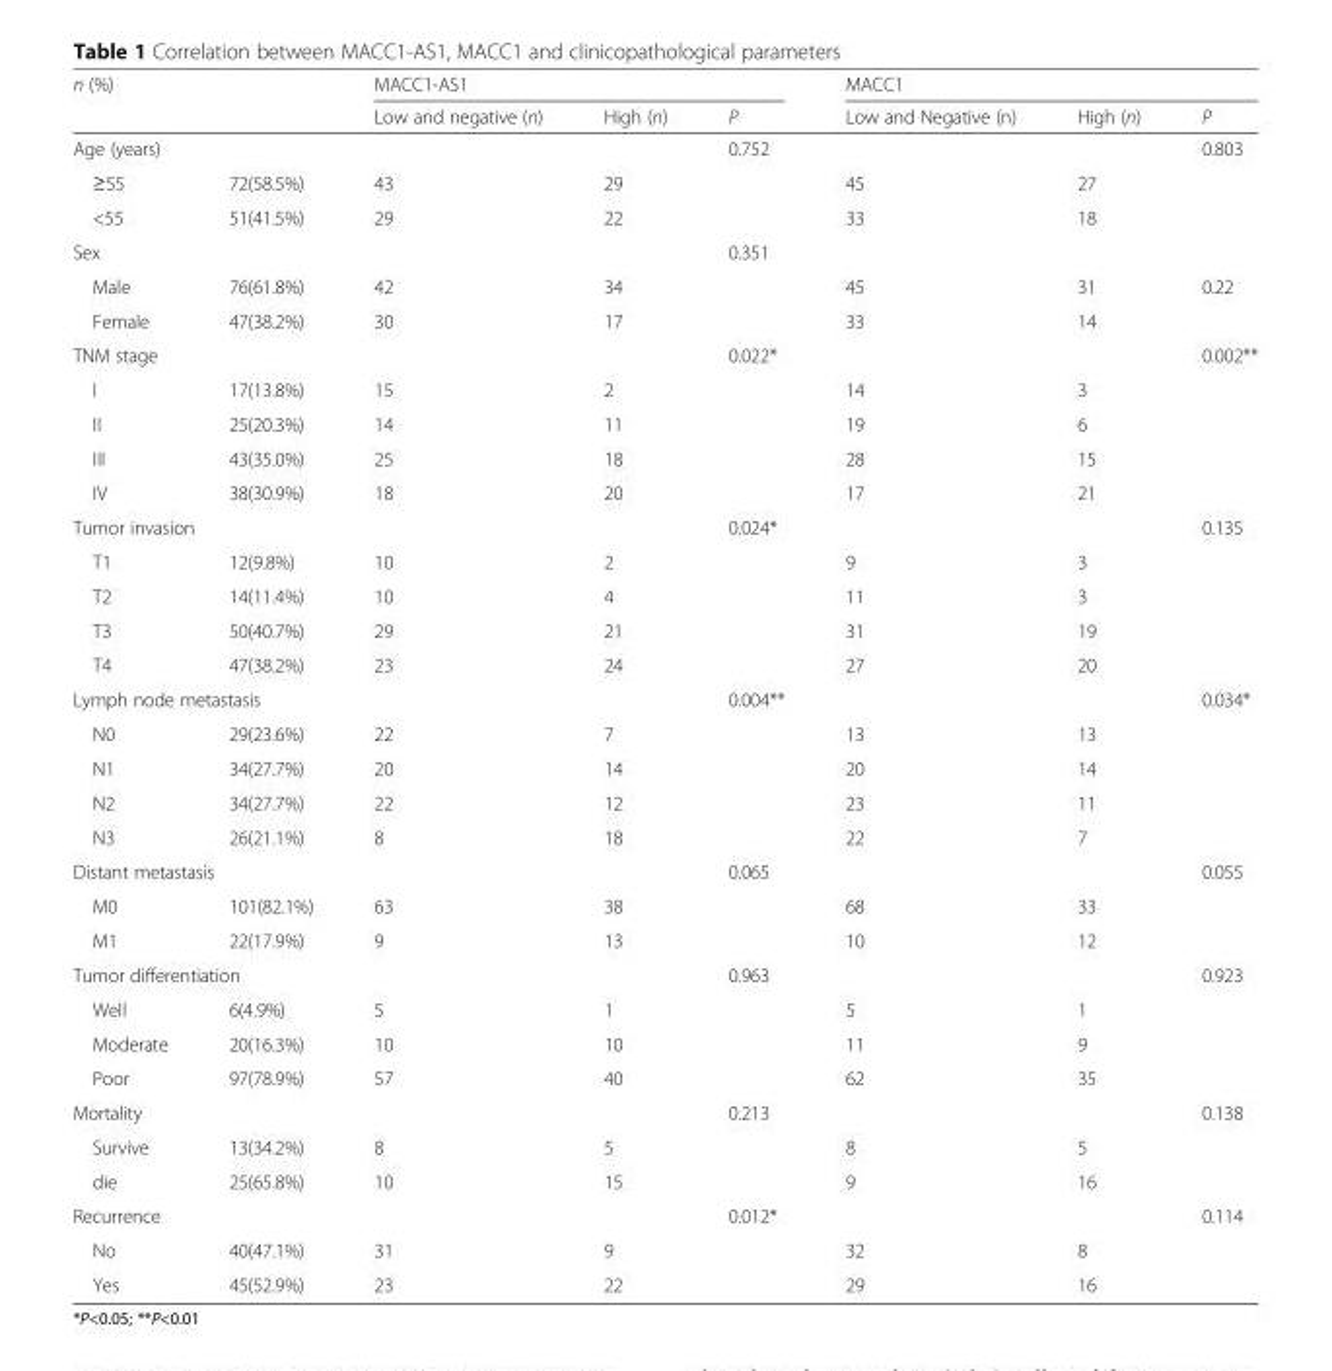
<table><thead><tr><td rowspan="3" colspan="2">n (%) Age (years)</td><td colspan="3">MACC1-AS1</td><td colspan="3">MACC1</td></tr><tr><td rowspan="3">Low and negative (n) 43</td><td rowspan="3">High (n) 29</td><td rowspan="3">P 0.752</td><td rowspan="3">Low and Negative (n) 45</td><td rowspan="3">High (n) 27</td><td rowspan="3">P 0.803</td></tr><tr></tr><tr><td>≥55</td><td>72(58.5%)</td></tr></thead><tbody><tr><td>&lt;55</td><td>51(41.5%)</td><td>29</td><td>22</td><td></td><td>33</td><td>18</td><td></td></tr><tr><td>Sex</td><td></td><td></td><td></td><td>0.351</td><td></td><td></td><td></td></tr><tr><td>Male</td><td>76(61.8%)</td><td>42</td><td>34</td><td></td><td>45</td><td>31</td><td>0.22</td></tr><tr><td>Female</td><td>47(38.2%)</td><td>30</td><td>17</td><td></td><td>33</td><td>14</td><td></td></tr><tr><td colspan="2">TNM stage</td><td></td><td></td><td>0.022*</td><td></td><td></td><td>0.002**</td></tr><tr><td>I</td><td>17(13.8%)</td><td>15</td><td>2</td><td></td><td>14</td><td>3</td><td></td></tr><tr><td>II</td><td>25(20.3%)</td><td>14</td><td>11</td><td></td><td>19</td><td>6</td><td></td></tr><tr><td>III</td><td>43(35.0%)</td><td>25</td><td>18</td><td></td><td>28</td><td>15</td><td></td></tr><tr><td>IV</td><td>38(30.9%)</td><td>18</td><td>20</td><td></td><td>17</td><td>21</td><td></td></tr><tr><td colspan="2">Tumor invasion</td><td></td><td></td><td>0.024*</td><td></td><td></td><td>0.135</td></tr><tr><td>T1</td><td>12(9.8%)</td><td>10</td><td>2</td><td></td><td>9</td><td>3</td><td></td></tr><tr><td>T2</td><td>14(11.4%)</td><td>10</td><td>4</td><td></td><td>11</td><td>3</td><td></td></tr><tr><td>T3</td><td>50(40.7%)</td><td>29</td><td>21</td><td></td><td>31</td><td>19</td><td></td></tr><tr><td>T4</td><td>47(38.2%)</td><td>23</td><td>24</td><td></td><td>27</td><td>20</td><td></td></tr><tr><td colspan="2">Lymph node metastasis</td><td></td><td></td><td>0.004**</td><td></td><td></td><td>0.034*</td></tr><tr><td>N0</td><td>29(23.6%)</td><td>22</td><td>7</td><td></td><td>13</td><td>13</td><td></td></tr><tr><td>N1</td><td>34(27.7%)</td><td>20</td><td>14</td><td></td><td>20</td><td>14</td><td></td></tr><tr><td>N2</td><td>34(27.7%)</td><td>22</td><td>12</td><td></td><td>23</td><td>11</td><td></td></tr><tr><td>N3</td><td>26(21.1%)</td><td>8</td><td>18</td><td></td><td>22</td><td>7</td><td></td></tr><tr><td colspan="2">Distant metastasis</td><td></td><td></td><td>0.065</td><td></td><td></td><td>0.055</td></tr><tr><td>M0</td><td>101(82.1%)</td><td>63</td><td>38</td><td></td><td>68</td><td>33</td><td></td></tr><tr><td>M1</td><td>22(17.9%)</td><td>9</td><td>13</td><td></td><td>10</td><td>12</td><td></td></tr><tr><td colspan="2">Tumor differentiation</td><td></td><td></td><td>0.963</td><td></td><td></td><td>0.923</td></tr><tr><td>Well</td><td>6(4.9%)</td><td>5</td><td>1</td><td></td><td>5</td><td>1</td><td></td></tr><tr><td>Moderate</td><td>20(16.3%)</td><td>10</td><td>10</td><td></td><td>11</td><td>9</td><td></td></tr><tr><td>Poor</td><td>97(78.9%)</td><td>57</td><td>40</td><td></td><td>62</td><td>35</td><td></td></tr><tr><td colspan="2">Mortality</td><td></td><td></td><td>0.213</td><td></td><td></td><td>0.138</td></tr><tr><td>Survive</td><td>13(34.2%)</td><td>8</td><td>5</td><td></td><td>8</td><td>5</td><td></td></tr><tr><td>die</td><td>25(65.8%)</td><td>10</td><td>15</td><td></td><td>9</td><td>16</td><td></td></tr><tr><td colspan="2">Recurrence</td><td></td><td></td><td>0.012*</td><td></td><td></td><td>0.114</td></tr><tr><td>No</td><td>40(47.1%)</td><td>31</td><td>9</td><td></td><td>32</td><td>8</td><td></td></tr><tr><td>Yes</td><td>45(52.9%)</td><td>23</td><td>22</td><td></td><td>29</td><td>16</td><td></td></tr></tbody></table>